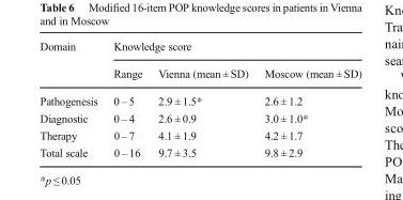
<table><thead><tr><td rowspan="2">Domain</td><td colspan="3">Knowledge score</td></tr><tr><td>Range</td><td>Vienna (mean ± SD)</td><td>Moscow (mean ± SD)</td></tr></thead><tbody><tr><td>Pathogenesis</td><td>0 – 5</td><td>2.9 ± 1.5*</td><td>2.6 ± 1.2</td></tr><tr><td>Diagnostic</td><td>0 – 4</td><td>2.6 ± 0.9</td><td>3.0 ± 1.0*</td></tr><tr><td>Therapy</td><td>0 – 7</td><td>4.1 ± 1.9</td><td>4.2 ± 1.7</td></tr><tr><td>Total scale</td><td>0 – 16</td><td>9.7 ± 3.5</td><td>9.8 ± 2.9</td></tr></tbody></table>